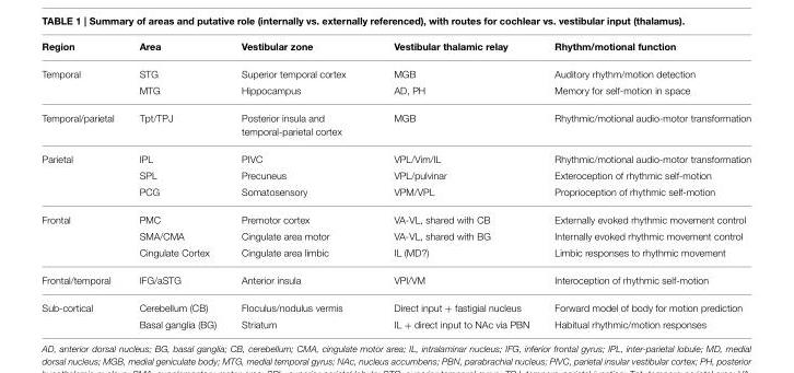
<table><thead><tr><td>Region</td><td>Area</td><td>Vestibular zone</td><td>Vestibular thalamic relay</td><td>Rhythm/motional function</td></tr></thead><tbody><tr><td rowspan="2">Temporal</td><td>STG</td><td>Superior temporal cortex</td><td>MGB</td><td>Auditory rhythm/motion detection</td></tr><tr><td>MTG</td><td>Hippocampus</td><td>AD, PH</td><td>Memory for self-motion in space</td></tr><tr><td>Temporal/parietal</td><td>Tpt/TPJ</td><td>Posterior insula and temporal-parietal cortex</td><td>MGB</td><td>Rhythmic/motional audio-motor transformation</td></tr><tr><td rowspan="3">Parietal</td><td>IPL</td><td>PIVC</td><td>VPL/Vim/IL</td><td>Rhythmic/motional audio-motor transformation</td></tr><tr><td>SPL</td><td>Precuneus</td><td>VPL/pulvinar</td><td>Exteroception of rhythmic self-motion</td></tr><tr><td>PCG</td><td>Somatosensory</td><td>VPM/VPL</td><td>Proprioception of rhythmic self-motion</td></tr><tr><td rowspan="3">Frontal</td><td>PMC</td><td>Premotor cortex</td><td>VA-VL, shared with CB</td><td>Externally evoked rhythmic movement control</td></tr><tr><td>SMA/CMA</td><td>Cingulate area motor</td><td>VA-VL, shared with BG</td><td>Internally evoked rhythmic movement control</td></tr><tr><td>Cingulate Cortex</td><td>Cingulate area limbic</td><td>IL (MD?)</td><td>Limbic responses to rhythmic movement</td></tr><tr><td>Frontal/temporal</td><td>IFG/aSTG</td><td>Anterior insula</td><td>VPI/VM</td><td>Interoception of rhythmic self-motion</td></tr><tr><td rowspan="2">Sub-cortical</td><td>Cerebellum (CB)</td><td>Floculus/nodulus vermis</td><td>Direct input + fastigial nucleus</td><td>Forward model of body for motion prediction</td></tr><tr><td>Basal ganglia (BG)</td><td>Striatum</td><td>IL + direct input to NAc via PBN</td><td>Habitual rhythmic/motion responses</td></tr></tbody></table>